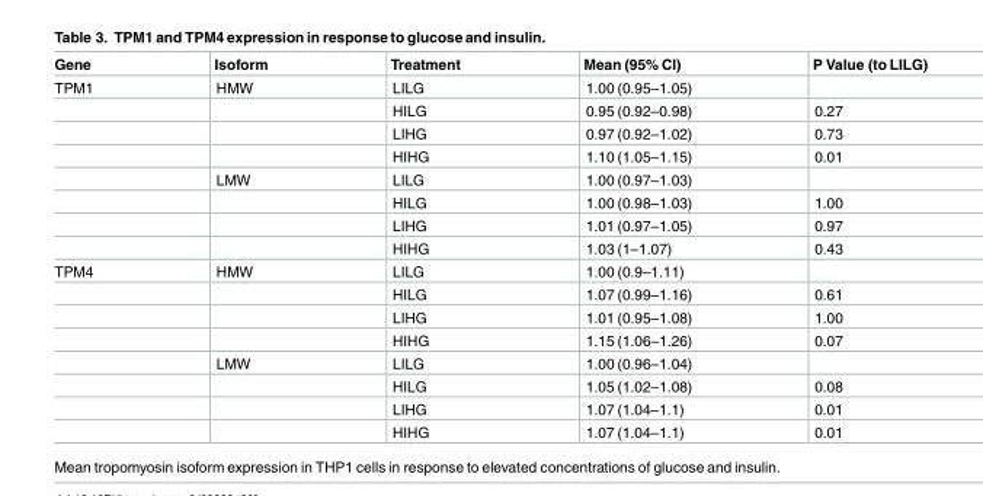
<table><thead><tr><td>Gene</td><td>Isoform</td><td>Treatment</td><td>Mean (95% CI)</td><td>P Value (to LILG)</td></tr></thead><tbody><tr><td rowspan="8">TPM1</td><td>HMW</td><td>LILG</td><td>1.00 (0.95–1.05)</td><td></td></tr><tr><td></td><td>HILG</td><td>0.95 (0.92–0.98)</td><td>0.27</td></tr><tr><td></td><td>LIHG</td><td>0.97 (0.92–1.02)</td><td>0.73</td></tr><tr><td></td><td>HIHG</td><td>1.10 (1.05–1.15)</td><td>0.01</td></tr><tr><td>LMW</td><td>LILG</td><td>1.00 (0.97–1.03)</td><td></td></tr><tr><td></td><td>HILG</td><td>1.00 (0.98–1.03)</td><td>1.00</td></tr><tr><td></td><td>LIHG</td><td>1.01 (0.97–1.05)</td><td>0.97</td></tr><tr><td></td><td>HIHG</td><td>1.03 (1–1.07)</td><td>0.43</td></tr><tr><td rowspan="8">TPM4</td><td>HMW</td><td>LILG</td><td>1.00 (0.9–1.11)</td><td></td></tr><tr><td></td><td>HILG</td><td>1.07 (0.99–1.16)</td><td>0.61</td></tr><tr><td></td><td>LIHG</td><td>1.01 (0.95–1.08)</td><td>1.00</td></tr><tr><td></td><td>HIHG</td><td>1.15 (1.06–1.26)</td><td>0.07</td></tr><tr><td>LMW</td><td>LILG</td><td>1.00 (0.96–1.04)</td><td></td></tr><tr><td></td><td>HILG</td><td>1.05 (1.02–1.08)</td><td>0.08</td></tr><tr><td></td><td>LIHG</td><td>1.07 (1.04–1.1)</td><td>0.01</td></tr><tr><td></td><td>HIHG</td><td>1.07 (1.04–1.1)</td><td>0.01</td></tr></tbody></table>